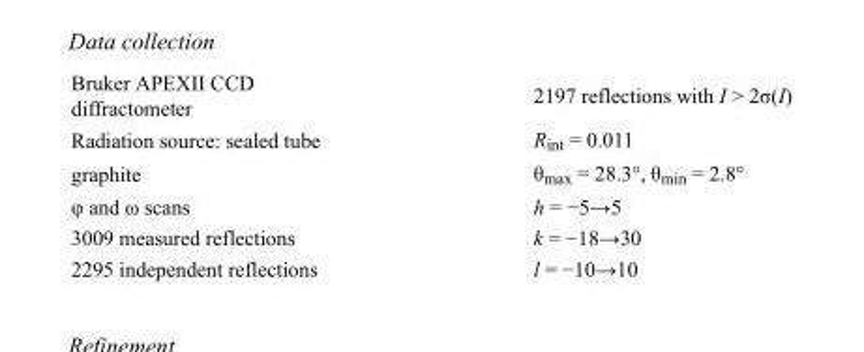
<table><tbody><tr><td>Bruker APEXII CCD diffractometer</td><td>2197 reflections with I &gt; 2σ(I)</td></tr><tr><td>Radiation source: sealed tube</td><td>R<sub>int</sub> = 0.011</td></tr><tr><td>graphite</td><td>θ<sub>max</sub> = 28.3°, θ<sub>min</sub> = 2.8°</td></tr><tr><td>φ and ω scans</td><td>h = −5→5</td></tr><tr><td>3009 measured reflections</td><td>k = −18→30</td></tr><tr><td>2295 independent reflections</td><td>l = −10→10</td></tr></tbody></table>